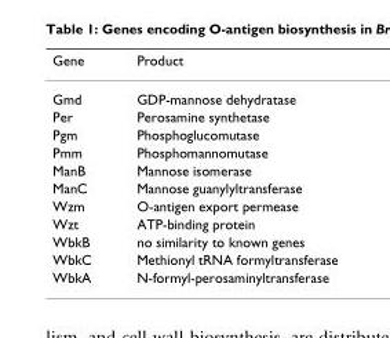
<table><thead><tr><td>Gene</td><td>Product</td></tr></thead><tbody><tr><td>Gmd</td><td>GDP-mannose dehydratase</td></tr><tr><td>Per</td><td>Perosamine synthetase</td></tr><tr><td>Pgm</td><td>Phosphoglucomutase</td></tr><tr><td>Pmm</td><td>Phosphomannomutase</td></tr><tr><td>ManB</td><td>Mannose isomerase</td></tr><tr><td>ManC</td><td>Mannose guanylyltransferase</td></tr><tr><td>Wzm</td><td>O-antigen export permease</td></tr><tr><td>Wzt</td><td>ATP-binding protein</td></tr><tr><td>WbkB</td><td>no similarity to known genes</td></tr><tr><td>WbkC</td><td>Methionyl tRNA formyltransferase</td></tr><tr><td>WbkA</td><td>N-formyl-perosaminyltransferase</td></tr></tbody></table>